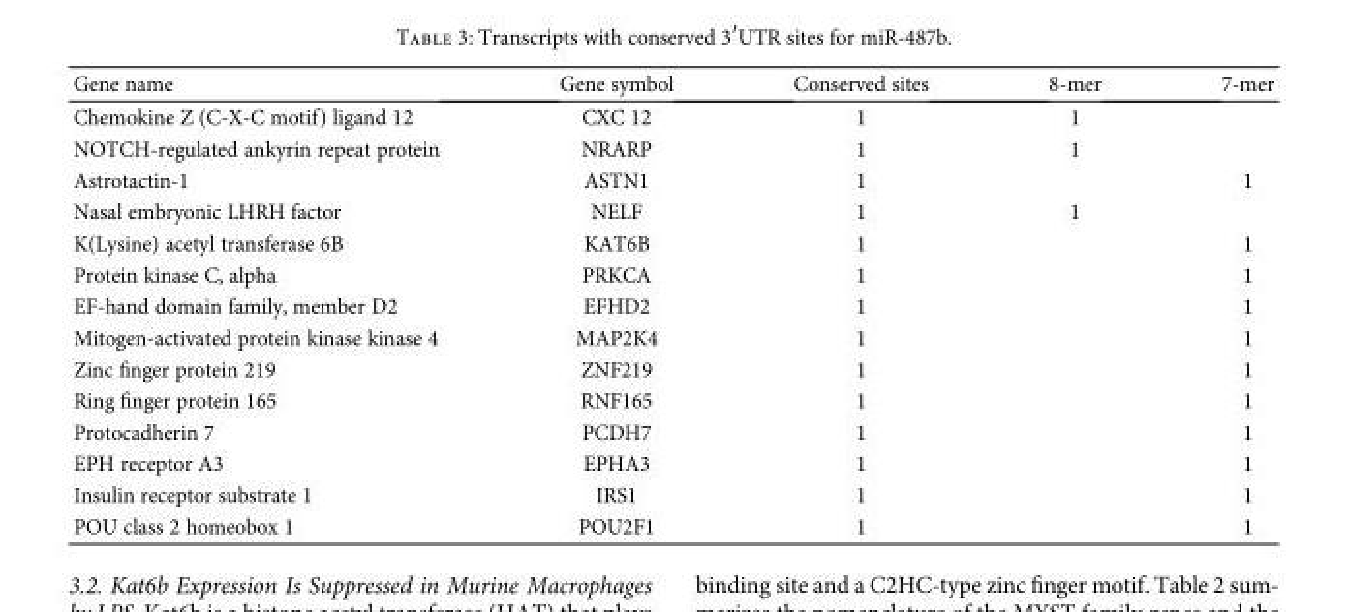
<table><thead><tr><td>Gene name</td><td>Gene symbol</td><td>Conserved sites</td><td>8-mer</td><td>7-mer</td></tr></thead><tbody><tr><td>Chemokine Z (C-X-C motif) ligand 12</td><td>CXC 12</td><td>1</td><td>1</td><td></td></tr><tr><td>NOTCH-regulated ankyrin repeat protein</td><td>NRARP</td><td>1</td><td>1</td><td></td></tr><tr><td>Astrotactin-1</td><td>ASTN1</td><td>1</td><td></td><td>1</td></tr><tr><td>Nasal embryonic LHRH factor</td><td>NELF</td><td>1</td><td>1</td><td></td></tr><tr><td>K(Lysine) acetyl transferase 6B</td><td>KAT6B</td><td>1</td><td></td><td>1</td></tr><tr><td>Protein kinase C, alpha</td><td>PRKCA</td><td>1</td><td></td><td>1</td></tr><tr><td>EF-hand domain family, member D2</td><td>EFHD2</td><td>1</td><td></td><td>1</td></tr><tr><td>Mitogen-activated protein kinase kinase 4</td><td>MAP2K4</td><td>1</td><td></td><td>1</td></tr><tr><td>Zinc finger protein 219</td><td>ZNF219</td><td>1</td><td></td><td>1</td></tr><tr><td>Ring finger protein 165</td><td>RNF165</td><td>1</td><td></td><td>1</td></tr><tr><td>Protocadherin 7</td><td>PCDH7</td><td>1</td><td></td><td>1</td></tr><tr><td>EPH receptor A3</td><td>EPHA3</td><td>1</td><td></td><td>1</td></tr><tr><td>Insulin receptor substrate 1</td><td>IRS1</td><td>1</td><td></td><td>1</td></tr><tr><td>POU class 2 homeobox 1</td><td>POU2F1</td><td>1</td><td></td><td>1</td></tr></tbody></table>